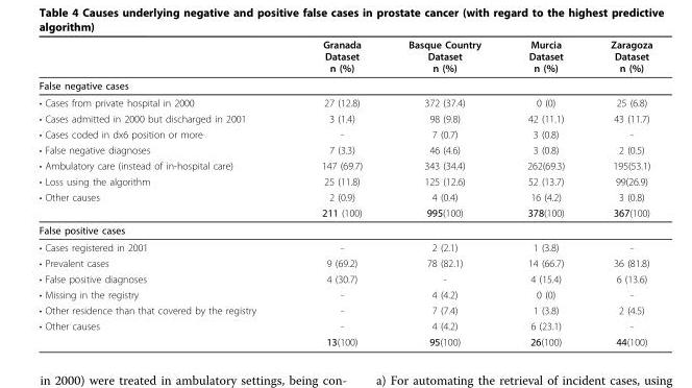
<table><thead><tr><td></td><td>Granada Dataset n (%)</td><td>Basque Country Dataset n (%)</td><td>Murcia Dataset n (%)</td><td>Zaragoza Dataset n (%)</td></tr></thead><tbody><tr><td colspan="5">False negative cases</td></tr><tr><td>• Cases from private hospital in 2000</td><td>27 (12.8)</td><td>372 (37.4)</td><td>0 (0)</td><td>25 (6.8)</td></tr><tr><td>• Cases admitted in 2000 but discharged in 2001</td><td>3 (1.4)</td><td>98 (9.8)</td><td>42 (11.1)</td><td>43 (11.7)</td></tr><tr><td>• Cases coded in dx6 position or more</td><td>-</td><td>7 (0.7)</td><td>3 (0.8)</td><td>-</td></tr><tr><td>• False negative diagnoses</td><td>7 (3.3)</td><td>46 (4.6)</td><td>3 (0.8)</td><td>2 (0.5)</td></tr><tr><td>• Ambulatory care (instead of in-hospital care)</td><td>147 (69.7)</td><td>343 (34.4)</td><td>262(69.3)</td><td>195(53.1)</td></tr><tr><td>• Loss using the algorithm</td><td>25 (11.8)</td><td>125 (12.6)</td><td>52 (13.7)</td><td>99(26.9)</td></tr><tr><td rowspan="2">• Other causes</td><td>2 (0.9)</td><td>4 (0.4)</td><td>16 (4.2)</td><td>3 (0.8)</td></tr><tr><td>211 (100)</td><td>995(100)</td><td>378(100)</td><td>367(100)</td></tr><tr><td colspan="5">False positive cases</td></tr><tr><td>• Cases registered in 2001</td><td>-</td><td>2 (2.1)</td><td>1 (3.8)</td><td>-</td></tr><tr><td>• Prevalent cases</td><td>9 (69.2)</td><td>78 (82.1)</td><td>14 (66.7)</td><td>36 (81.8)</td></tr><tr><td>• False positive diagnoses</td><td>4 (30.7)</td><td>-</td><td>4 (15.4)</td><td>6 (13.6)</td></tr><tr><td>• Missing in the registry</td><td>-</td><td>4 (4.2)</td><td>0 (0)</td><td>-</td></tr><tr><td>• Other residence than that covered by the registry</td><td>-</td><td>7 (7.4)</td><td>1 (3.8)</td><td>2 (4.5)</td></tr><tr><td rowspan="2">• Other causes</td><td>-</td><td>4 (4.2)</td><td>6 (23.1)</td><td>-</td></tr><tr><td>13(100)</td><td>95(100)</td><td>26(100)</td><td>44(100)</td></tr></tbody></table>